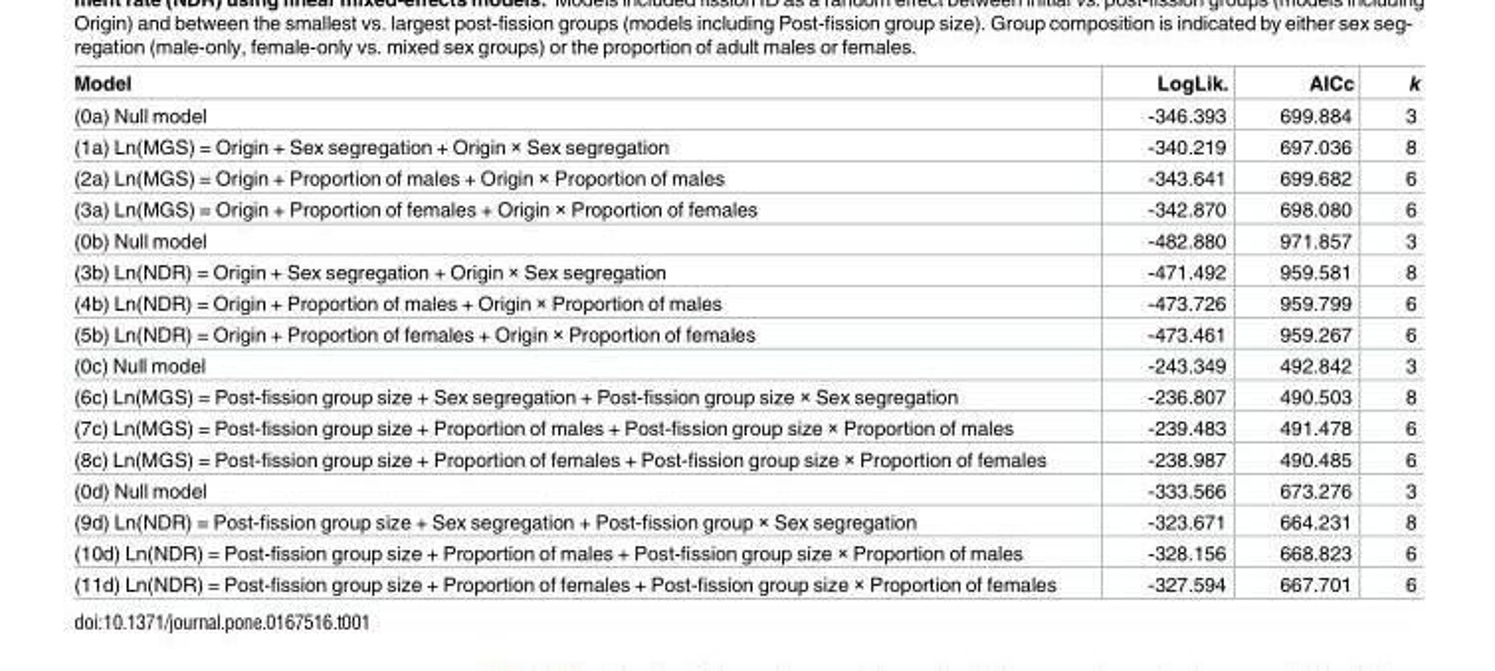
<table><thead><tr><td>Model</td><td>LogLik.</td><td>AICc</td><td>k</td></tr></thead><tbody><tr><td>(0a) Null model</td><td>-346.393</td><td>699.884</td><td>3</td></tr><tr><td>(1a) Ln(MGS) = Origin + Sex segregation + Origin × Sex segregation</td><td>-340.219</td><td>697.036</td><td>8</td></tr><tr><td>(2a) Ln(MGS) = Origin + Proportion of males + Origin × Proportion of males</td><td>-343.641</td><td>699.682</td><td>6</td></tr><tr><td>(3a) Ln(MGS) = Origin + Proportion of females + Origin × Proportion of females</td><td>-342.870</td><td>698.080</td><td>6</td></tr><tr><td>(0b) Null model</td><td>-482.880</td><td>971.857</td><td>3</td></tr><tr><td>(3b) Ln(NDR) = Origin + Sex segregation + Origin × Sex segregation</td><td>-471.492</td><td>959.581</td><td>8</td></tr><tr><td>(4b) Ln(NDR) = Origin + Proportion of males + Origin × Proportion of males</td><td>-473.726</td><td>959.799</td><td>6</td></tr><tr><td>(5b) Ln(NDR) = Origin + Proportion of females + Origin × Proportion of females</td><td>-473.461</td><td>959.267</td><td>6</td></tr><tr><td>(0c) Null model</td><td>-243.349</td><td>492.842</td><td>3</td></tr><tr><td>(6c) Ln(MGS) = Post-fission group size + Sex segregation + Post-fission group size × Sex segregation</td><td>-236.807</td><td>490.503</td><td>8</td></tr><tr><td>(7c) Ln(MGS) = Post-fission group size + Proportion of males + Post-fission group size × Proportion of males</td><td>-239.483</td><td>491.478</td><td>6</td></tr><tr><td>(8c) Ln(MGS) = Post-fission group size + Proportion of females + Post-fission group size × Proportion of females</td><td>-238.987</td><td>490.485</td><td>6</td></tr><tr><td>(0d) Null model</td><td>-333.566</td><td>673.276</td><td>3</td></tr><tr><td>(9d) Ln(NDR) = Post-fission group size + Sex segregation + Post-fission group × Sex segregation</td><td>-323.671</td><td>664.231</td><td>8</td></tr><tr><td>(10d) Ln(NDR) = Post-fission group size + Proportion of males + Post-fission group size × Proportion of males</td><td>-328.156</td><td>668.823</td><td>6</td></tr><tr><td>(11d) Ln(NDR) = Post-fission group size + Proportion of females + Post-fission group size × Proportion of females</td><td>-327.594</td><td>667.701</td><td>6</td></tr></tbody></table>